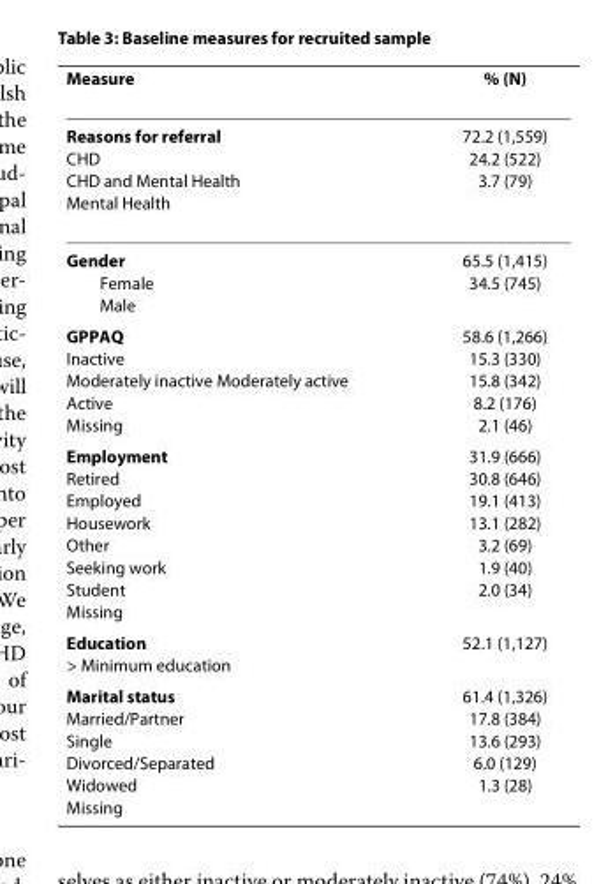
<table><thead><tr><td>Measure</td><td>% (N)</td></tr></thead><tbody><tr><td>Reasons for referral CHD CHD and Mental Health Mental Health</td><td>72.2 (1,559) 24.2 (522) 3.7 (79)</td></tr><tr><td>Gender Female Male</td><td>65.5 (1,415) 34.5 (745)</td></tr><tr><td>GPPAQ Inactive Moderately inactive Moderately active Active Missing</td><td>58.6 (1,266) 15.3 (330) 15.8 (342) 8.2 (176) 2.1 (46)</td></tr><tr><td>Employment Retired Employed Housework Other Seeking work Student Missing</td><td>31.9 (666) 30.8 (646) 19.1 (413) 13.1 (282) 3.2 (69) 1.9 (40) 2.0 (34)</td></tr><tr><td>Education &gt; Minimum education</td><td>52.1 (1,127)</td></tr><tr><td>Marital status Married/Partner Single Divorced/Separated Widowed Missing</td><td>61.4 (1,326) 17.8 (384) 13.6 (293) 6.0 (129) 1.3 (28)</td></tr></tbody></table>